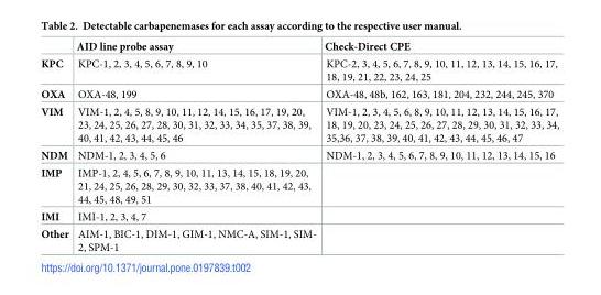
<table><thead><tr><td></td><td>AID line probe assay</td><td>Check-Direct CPE</td></tr></thead><tbody><tr><td>KPC</td><td>KPC-1, 2, 3, 4, 5, 6, 7, 8, 9, 10</td><td>KPC-2, 3, 4, 5, 6, 7, 8, 9, 10, 11, 12, 13, 14, 15, 16, 17, 18, 19, 21, 22, 23, 24, 25</td></tr><tr><td>OXA</td><td>OXA-48, 199</td><td>OXA-48, 48b, 162, 163, 181, 204, 232, 244, 245, 370</td></tr><tr><td>VIM</td><td>VIM-1, 2, 4, 5, 8, 9, 10, 11, 12, 14, 15, 16, 17, 19, 20, 23, 24, 25, 26, 27, 28, 30, 31, 32, 33, 34, 35, 37, 38, 39, 40, 41, 42, 43, 44, 45, 46</td><td>VIM-1, 2, 3, 4, 5, 6, 8, 9, 10, 11, 12, 13, 14, 15, 16, 17, 18, 19, 20, 23, 24, 25, 26, 27, 28, 29, 30, 31, 32, 33, 34, 35,36, 37, 38, 39, 40, 41, 42, 43, 44, 45, 46, 47</td></tr><tr><td>NDM</td><td>NDM-1, 2, 3, 4, 5, 6</td><td>NDM-1, 2, 3, 4, 5, 6, 7, 8, 9, 10, 11, 12, 13, 14, 15, 16</td></tr><tr><td>IMP</td><td>IMP-1, 2, 4, 5, 6, 7, 8, 9, 10, 11, 13, 14, 15, 18, 19, 20, 21, 24, 25, 26, 28, 29, 30, 32, 33, 37, 38, 40, 41, 42, 43, 44, 45, 48, 49, 51</td><td></td></tr><tr><td>IMI</td><td>IMI-1, 2, 3, 4, 7</td><td></td></tr><tr><td>Other</td><td>AIM-1, BIC-1, DIM-1, GIM-1, NMC-A, SIM-1, SIM- 2, SPM-1</td><td></td></tr></tbody></table>